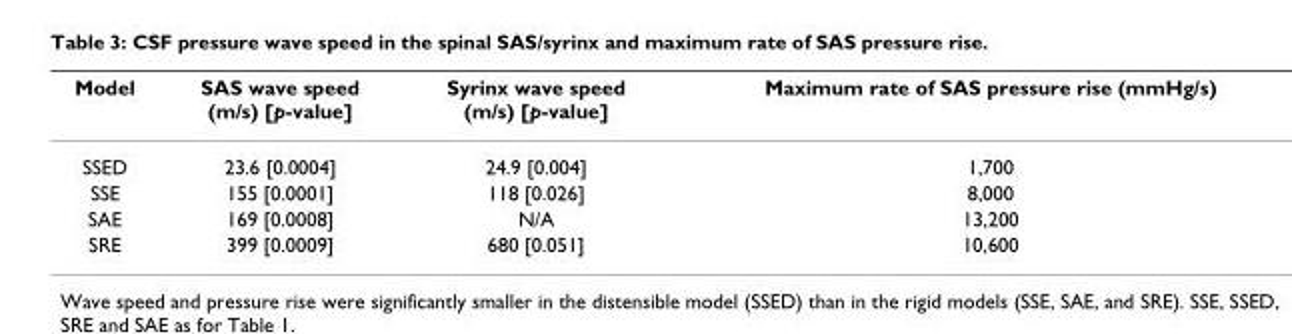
<table><thead><tr><td>Model</td><td>SAS wave speed (m/s) [p-value]</td><td>Syrinx wave speed (m/s) [p-value]</td><td>Maximum rate of SAS pressure rise (mmHg/s)</td></tr></thead><tbody><tr><td>SSED</td><td>23.6 [0.0004]</td><td>24.9 [0.004]</td><td>1,700</td></tr><tr><td>SSE</td><td>155 [0.0001]</td><td>118 [0.026]</td><td>8,000</td></tr><tr><td>SAE</td><td>169 [0.0008]</td><td>N/A</td><td>13,200</td></tr><tr><td>SRE</td><td>399 [0.0009]</td><td>680 [0.051]</td><td>10,600</td></tr></tbody></table>